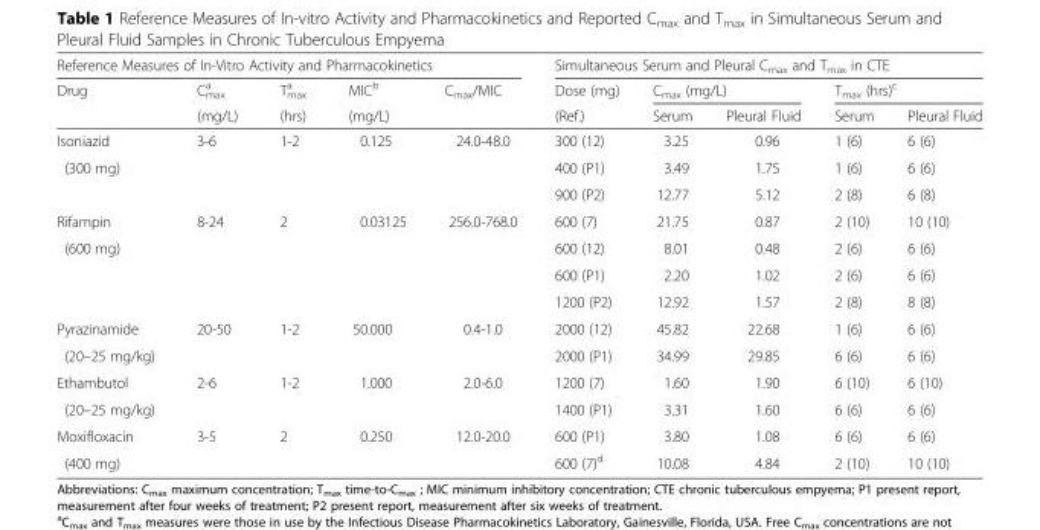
<table><thead><tr><td colspan="5">Reference Measures of In-Vitro Activity and Pharmacokinetics</td><td colspan="5">Simultaneous Serum and Pleural C<sub>max</sub> and T<sub>max</sub> in CTE</td></tr><tr><td rowspan="2">Drug</td><td rowspan="2">C<sub>max</sub> <sup>a</sup> (mg/L)</td><td rowspan="2">T<sub>max</sub> <sup>a</sup> (hrs)</td><td rowspan="2">MIC<sup>b</sup> (mg/L)</td><td rowspan="2">C<sub>max</sub>/MIC</td><td rowspan="2">Dose (mg) (Ref.)</td><td colspan="2">C<sub>max</sub> (mg/L)</td><td colspan="2">T<sub>max</sub> (hrs)<sup>c</sup></td></tr><tr><td>Serum</td><td>Pleural Fluid</td><td>Serum</td><td>Pleural Fluid</td></tr></thead><tbody><tr><td>Isoniazid</td><td>3-6</td><td>1-2</td><td>0.125</td><td>24.0-48.0</td><td>300 (12)</td><td>3.25</td><td>0.96</td><td>1 (6)</td><td>6 (6)</td></tr><tr><td rowspan="2">(300 mg)</td><td></td><td></td><td></td><td></td><td>400 (P1)</td><td>3.49</td><td>1.75</td><td>1 (6)</td><td>6 (6)</td></tr><tr><td></td><td></td><td></td><td></td><td>900 (P2)</td><td>12.77</td><td>5.12</td><td>2 (8)</td><td>6 (8)</td></tr><tr><td>Rifampin</td><td>8-24</td><td>2</td><td>0.03125</td><td>256.0-768.0</td><td>600 (7)</td><td>21.75</td><td>0.87</td><td>2 (10)</td><td>10 (10)</td></tr><tr><td rowspan="3">(600 mg)</td><td></td><td></td><td></td><td></td><td>600 (12)</td><td>8.01</td><td>0.48</td><td>2 (6)</td><td>6 (6)</td></tr><tr><td></td><td></td><td></td><td></td><td>600 (P1)</td><td>2.20</td><td>1.02</td><td>2 (6)</td><td>6 (6)</td></tr><tr><td></td><td></td><td></td><td></td><td>1200 (P2)</td><td>12.92</td><td>1.57</td><td>2 (8)</td><td>8 (8)</td></tr><tr><td>Pyrazinamide</td><td>20-50</td><td>1-2</td><td>50.000</td><td>0.4-1.0</td><td>2000 (12)</td><td>45.82</td><td>22.68</td><td>1 (6)</td><td>6 (6)</td></tr><tr><td>(20–25 mg/kg)</td><td></td><td></td><td></td><td></td><td>2000 (P1)</td><td>34.99</td><td>29.85</td><td>6 (6)</td><td>6 (6)</td></tr><tr><td>Ethambutol</td><td>2-6</td><td>1-2</td><td>1.000</td><td>2.0-6.0</td><td>1200 (7)</td><td>1.60</td><td>1.90</td><td>6 (10)</td><td>6 (10)</td></tr><tr><td>(20–25 mg/kg)</td><td></td><td></td><td></td><td></td><td>1400 (P1)</td><td>3.31</td><td>1.60</td><td>6 (6)</td><td>6 (6)</td></tr><tr><td>Moxifloxacin</td><td>3-5</td><td>2</td><td>0.250</td><td>12.0-20.0</td><td>600 (P1)</td><td>3.80</td><td>1.08</td><td>6 (6)</td><td>6 (6)</td></tr><tr><td>(400 mg)</td><td></td><td></td><td></td><td></td><td>600 (7)<sup>d</sup></td><td>10.08</td><td>4.84</td><td>2 (10)</td><td>10 (10)</td></tr></tbody></table>